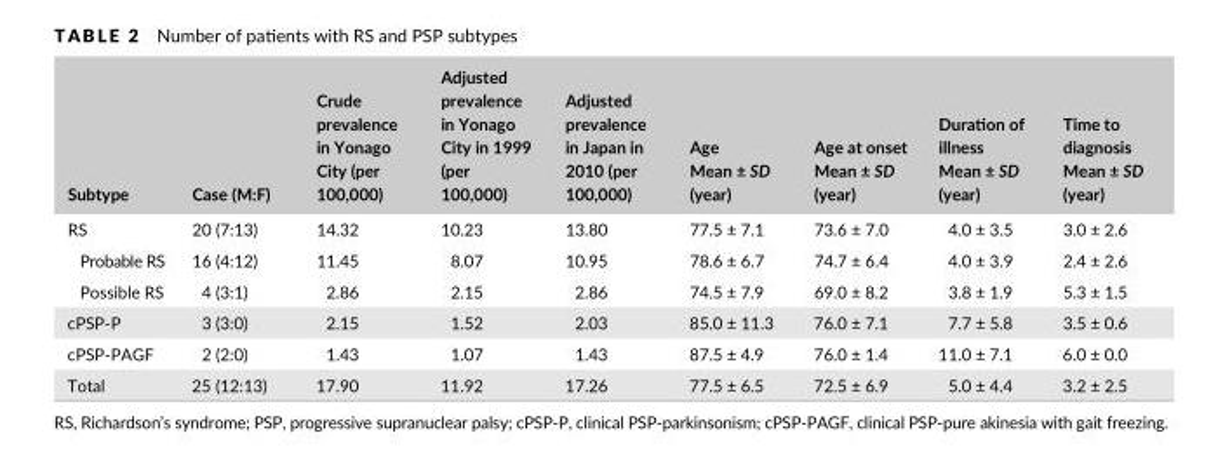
<table><thead><tr><td>Subtype</td><td>Case (M:F)</td><td>Crude prevalence in Yonago City (per 100,000)</td><td>Adjusted prevalence in Yonago City in 1999 (per 100,000)</td><td>Adjusted prevalence in Japan in 2010 (per 100,000)</td><td>Age Mean ± SD (year)</td><td>Age at onset Mean ± SD (year)</td><td>Duration of illness Mean ± SD (year)</td><td>Time to diagnosis Mean ± SD (year)</td></tr></thead><tbody><tr><td>RS</td><td>20 (7:13)</td><td>14.32</td><td>10.23</td><td>13.80</td><td>77.5 ± 7.1</td><td>73.6 ± 7.0</td><td>4.0 ± 3.5</td><td>3.0 ± 2.6</td></tr><tr><td>Probable RS</td><td>16 (4:12)</td><td>11.45</td><td>8.07</td><td>10.95</td><td>78.6 ± 6.7</td><td>74.7 ± 6.4</td><td>4.0 ± 3.9</td><td>2.4 ± 2.6</td></tr><tr><td>Possible RS</td><td>4 (3:1)</td><td>2.86</td><td>2.15</td><td>2.86</td><td>74.5 ± 7.9</td><td>69.0 ± 8.2</td><td>3.8 ± 1.9</td><td>5.3 ± 1.5</td></tr><tr><td>cPSP- P</td><td>3 (3:0)</td><td>2.15</td><td>1.52</td><td>2.03</td><td>85.0 ± 11.3</td><td>76.0 ± 7.1</td><td>7.7 ± 5.8</td><td>3.5 ± 0.6</td></tr><tr><td>cPSP- PAGF</td><td>2 (2:0)</td><td>1.43</td><td>1.07</td><td>1.43</td><td>87.5 ± 4.9</td><td>76.0 ± 1.4</td><td>11.0 ± 7.1</td><td>6.0 ± 0.0</td></tr><tr><td>Total</td><td>25 (12:13)</td><td>17.90</td><td>11.92</td><td>17.26</td><td>77.5 ± 6.5</td><td>72.5 ± 6.9</td><td>5.0 ± 4.4</td><td>3.2 ± 2.5</td></tr></tbody></table>